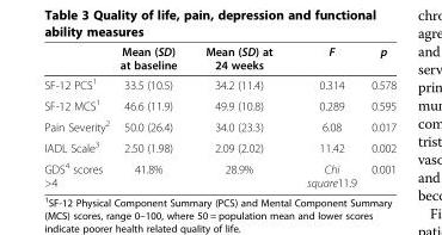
<table><thead><tr><td></td><td>Mean (SD) at baseline</td><td>Mean (SD) at 24 weeks</td><td>F</td><td>p</td></tr></thead><tbody><tr><td>SF-12 PCS<sup>1</sup></td><td>33.5 (10.5)</td><td>34.2 (11.4)</td><td>0.314</td><td>0.578</td></tr><tr><td>SF-12 MCS<sup>1</sup></td><td>46.6 (11.9)</td><td>49.9 (10.8)</td><td>0.289</td><td>0.595</td></tr><tr><td>Pain Severity<sup>2</sup></td><td>50.0 (26.4)</td><td>34.0 (23.3)</td><td>6.08</td><td>0.017</td></tr><tr><td>IADL Scale<sup>3</sup></td><td>2.50 (1.98)</td><td>2.09 (2.02)</td><td>11.42</td><td>0.002</td></tr><tr><td>GDS<sup>4</sup> scores &gt;4</td><td>41.8%</td><td>28.9%</td><td>Chi square11.9</td><td>0.001</td></tr></tbody></table>